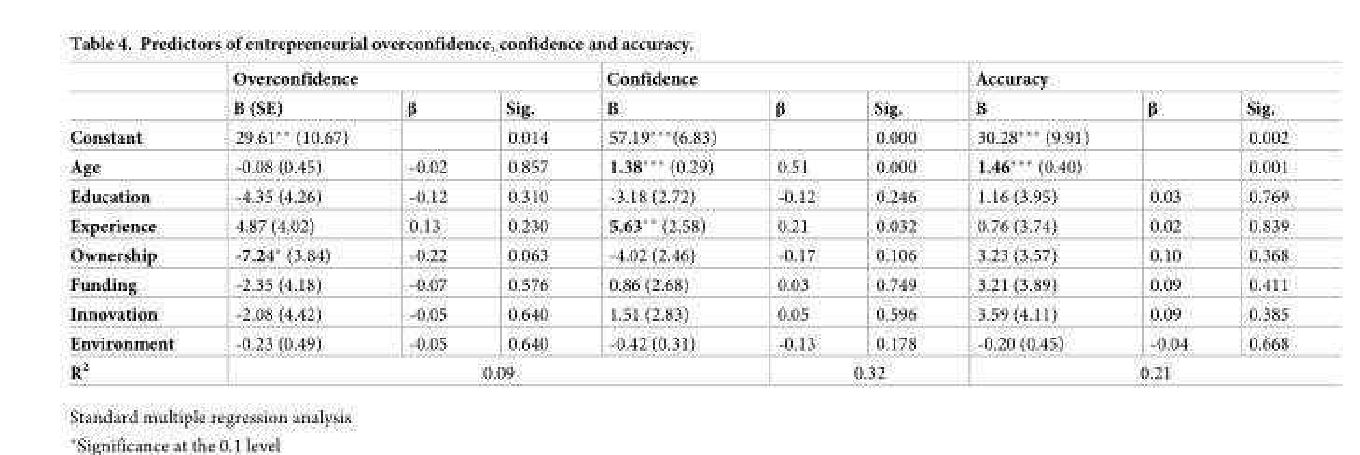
<table><thead><tr><td rowspan="2"></td><td colspan="3">Overconfidence</td><td colspan="3">Confidence</td><td colspan="3">Accuracy</td></tr><tr><td>B (SE)</td><td>β</td><td>Sig.</td><td>B</td><td>β</td><td>Sig.</td><td>B</td><td>β</td><td>Sig.</td></tr></thead><tbody><tr><td>Constant</td><td>29.61** (10.67)</td><td></td><td>0.014</td><td>57.19***(6.83)</td><td></td><td>0.000</td><td>30.28*** (9.91)</td><td></td><td>0.002</td></tr><tr><td>Age</td><td>-0.08 (0.45)</td><td>-0.02</td><td>0.857</td><td>1.38*** (0.29)</td><td>0.51</td><td>0.000</td><td>1.46*** (0.40)</td><td></td><td>0.001</td></tr><tr><td>Education</td><td>-4.35 (4.26)</td><td>-0.12</td><td>0.310</td><td>-3.18 (2.72)</td><td>-0.12</td><td>0.246</td><td>1.16 (3.95)</td><td>0.03</td><td>0.769</td></tr><tr><td>Experience</td><td>4.87 (4.02)</td><td>0.13</td><td>0.230</td><td>5.63** (2.58)</td><td>0.21</td><td>0.032</td><td>0.76 (3.74)</td><td>0.02</td><td>0.839</td></tr><tr><td>Ownership</td><td>-7.24* (3.84)</td><td>-0.22</td><td>0.063</td><td>-4.02 (2.46)</td><td>-0.17</td><td>0.106</td><td>3.23 (3.57)</td><td>0.10</td><td>0.368</td></tr><tr><td>Funding</td><td>-2.35 (4.18)</td><td>-0.07</td><td>0.576</td><td>0.86 (2.68)</td><td>0.03</td><td>0.749</td><td>3.21 (3.89)</td><td>0.09</td><td>0.411</td></tr><tr><td>Innovation</td><td>-2.08 (4.42)</td><td>-0.05</td><td>0.640</td><td>1.51 (2.83)</td><td>0.05</td><td>0.596</td><td>3.59 (4.11)</td><td>0.09</td><td>0.385</td></tr><tr><td>Environment</td><td>-0.23 (0.49)</td><td>-0.05</td><td>0.640</td><td>-0.42 (0.31)</td><td>-0.13</td><td>0.178</td><td>-0.20 (0.45)</td><td>-0.04</td><td>0.668</td></tr><tr><td>R<sup>2</sup></td><td colspan="4">0.09</td><td colspan="2">0.32</td><td colspan="3">0.21</td></tr></tbody></table>